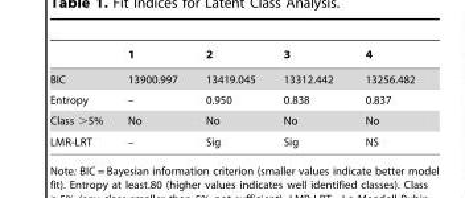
<table><thead><tr><td></td><td>1</td><td>2</td><td>3</td><td>4</td></tr></thead><tbody><tr><td>BIC</td><td>13900.997</td><td>13419.045</td><td>13312.442</td><td>13256.482</td></tr><tr><td>Entropy</td><td>–</td><td>0.950</td><td>0.838</td><td>0.837</td></tr><tr><td>Class &gt;5%</td><td>No</td><td>No</td><td>No</td><td>No</td></tr><tr><td>LMR-LRT</td><td>–</td><td>Sig</td><td>Sig</td><td>NS</td></tr></tbody></table>